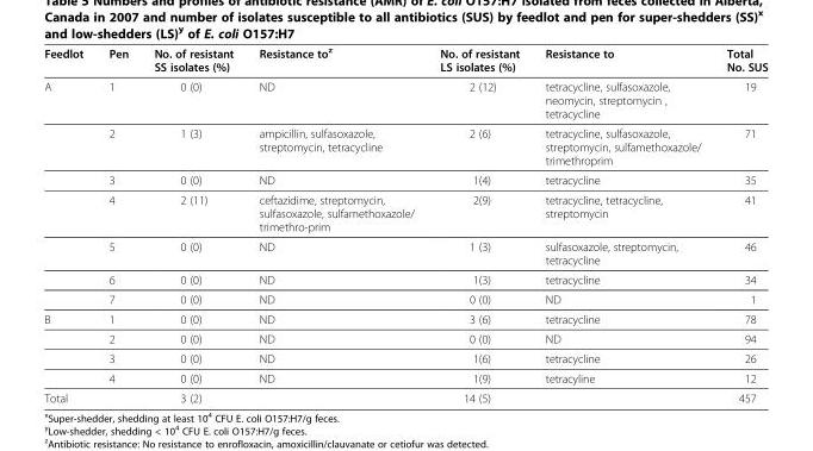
<table><thead><tr><td>Feedlot</td><td>Pen</td><td>No. of resistant SS isolates (%)</td><td>Resistance to<sup>z</sup></td><td>No. of resistant LS isolates (%)</td><td>Resistance to</td><td>Total No. SUS</td></tr></thead><tbody><tr><td rowspan="7">A</td><td>1</td><td>0 (0)</td><td>ND</td><td>2 (12)</td><td>tetracycline, sulfasoxazole, neomycin, streptomycin , tetracycline</td><td>19</td></tr><tr><td>2</td><td>1 (3)</td><td>ampicillin, sulfasoxazole, streptomycin, tetracycline</td><td>2 (6)</td><td>tetracycline, sulfasoxazole, streptomycin, sulfamethoxazole/ trimethroprim</td><td>71</td></tr><tr><td>3</td><td>0 (0)</td><td>ND</td><td>1(4)</td><td>tetracycline</td><td>35</td></tr><tr><td>4</td><td>2 (11)</td><td>ceftazidime, streptomycin, sulfasoxazole, sulfamethoxazole/ trimethro-prim</td><td>2(9)</td><td>tetracycline, tetracycline, streptomycin</td><td>41</td></tr><tr><td>5</td><td>0 (0)</td><td>ND</td><td>1 (3)</td><td>sulfasoxazole, streptomycin, tetracycline</td><td>46</td></tr><tr><td>6</td><td>0 (0)</td><td>ND</td><td>1(3)</td><td>tetracycline</td><td>34</td></tr><tr><td>7</td><td>0 (0)</td><td>ND</td><td>0 (0)</td><td>ND</td><td>1</td></tr><tr><td rowspan="4">B</td><td>1</td><td>0 (0)</td><td>ND</td><td>3 (6)</td><td>tetracycline</td><td>78</td></tr><tr><td>2</td><td>0 (0)</td><td>ND</td><td>0 (0)</td><td>ND</td><td>94</td></tr><tr><td>3</td><td>0 (0)</td><td>ND</td><td>1(6)</td><td>tetracycline</td><td>26</td></tr><tr><td>4</td><td>0 (0)</td><td>ND</td><td>1(9)</td><td>tetracyline</td><td>12</td></tr><tr><td>Total</td><td></td><td>3 (2)</td><td></td><td>14 (5)</td><td></td><td>457</td></tr></tbody></table>